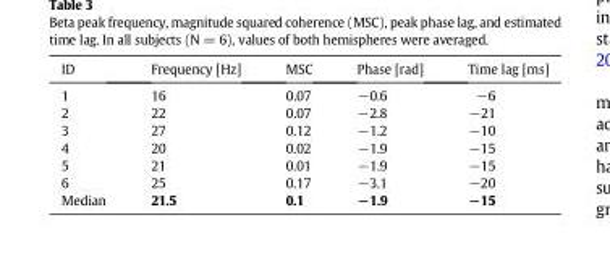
<table><thead><tr><td>ID</td><td>Frequency [Hz]</td><td>MSC</td><td>Phase [rad]</td><td>Time lag [ms]</td></tr></thead><tbody><tr><td>1</td><td>16</td><td>0.07</td><td>−0.6</td><td>−6</td></tr><tr><td>2</td><td>22</td><td>0.07</td><td>−2.8</td><td>−21</td></tr><tr><td>3</td><td>27</td><td>0.12</td><td>−1.2</td><td>−10</td></tr><tr><td>4</td><td>20</td><td>0.02</td><td>−1.9</td><td>−15</td></tr><tr><td>5</td><td>21</td><td>0.01</td><td>−1.9</td><td>−15</td></tr><tr><td>6</td><td>25</td><td>0.17</td><td>−3.1</td><td>−20</td></tr><tr><td>Median</td><td>21.5</td><td>0.1</td><td>−1.9</td><td>−15</td></tr></tbody></table>